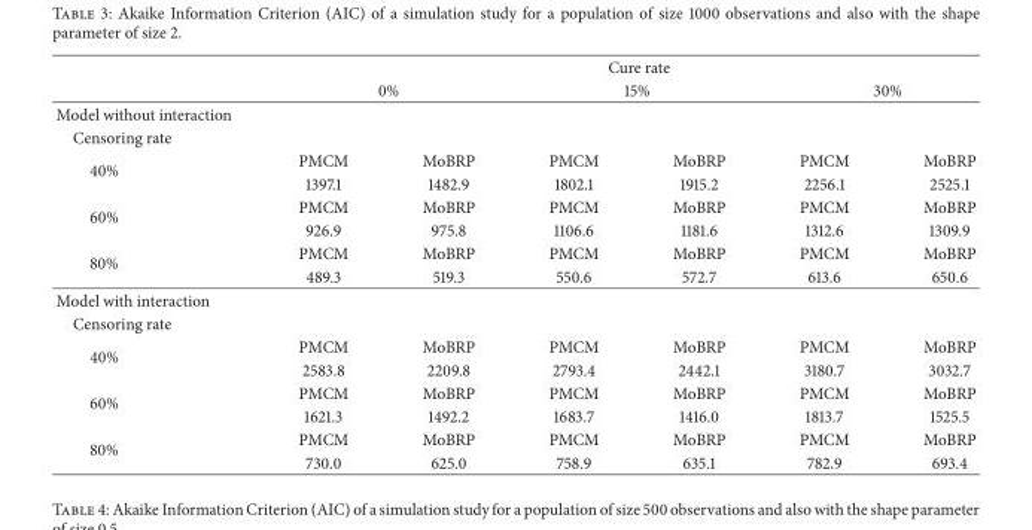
<table><thead><tr><td rowspan="3">Model without interaction</td><td colspan="6">Cure rate</td></tr><tr><td colspan="2">0%</td><td colspan="2">15%</td><td colspan="2">30%</td></tr><tr><td></td><td></td><td></td><td></td><td></td><td></td></tr></thead><tbody><tr><td colspan="7">Censoring rate</td></tr><tr><td rowspan="2">40%</td><td>PMCM</td><td>MoBRP</td><td>PMCM</td><td>MoBRP</td><td>PMCM</td><td>MoBRP</td></tr><tr><td>1397.1</td><td>1482.9</td><td>1802.1</td><td>1915.2</td><td>2256.1</td><td>2525.1</td></tr><tr><td rowspan="2">60%</td><td>PMCM</td><td>MoBRP</td><td>PMCM</td><td>MoBRP</td><td>PMCM</td><td>MoBRP</td></tr><tr><td>926.9</td><td>975.8</td><td>1106.6</td><td>1181.6</td><td>1312.6</td><td>1309.9</td></tr><tr><td rowspan="2">80%</td><td>PMCM</td><td>MoBRP</td><td>PMCM</td><td>MoBRP</td><td>PMCM</td><td>MoBRP</td></tr><tr><td>489.3</td><td>519.3</td><td>550.6</td><td>572.7</td><td>613.6</td><td>650.6</td></tr><tr><td colspan="7">Model with interaction</td></tr><tr><td colspan="7">Censoring rate</td></tr><tr><td rowspan="2">40%</td><td>PMCM</td><td>MoBRP</td><td>PMCM</td><td>MoBRP</td><td>PMCM</td><td>MoBRP</td></tr><tr><td>2583.8</td><td>2209.8</td><td>2793.4</td><td>2442.1</td><td>3180.7</td><td>3032.7</td></tr><tr><td rowspan="2">60%</td><td>PMCM</td><td>MoBRP</td><td>PMCM</td><td>MoBRP</td><td>PMCM</td><td>MoBRP</td></tr><tr><td>1621.3</td><td>1492.2</td><td>1683.7</td><td>1416.0</td><td>1813.7</td><td>1525.5</td></tr><tr><td rowspan="2">80%</td><td>PMCM</td><td>MoBRP</td><td>PMCM</td><td>MoBRP</td><td>PMCM</td><td>MoBRP</td></tr><tr><td>730.0</td><td>625.0</td><td>758.9</td><td>635.1</td><td>782.9</td><td>693.4</td></tr></tbody></table>